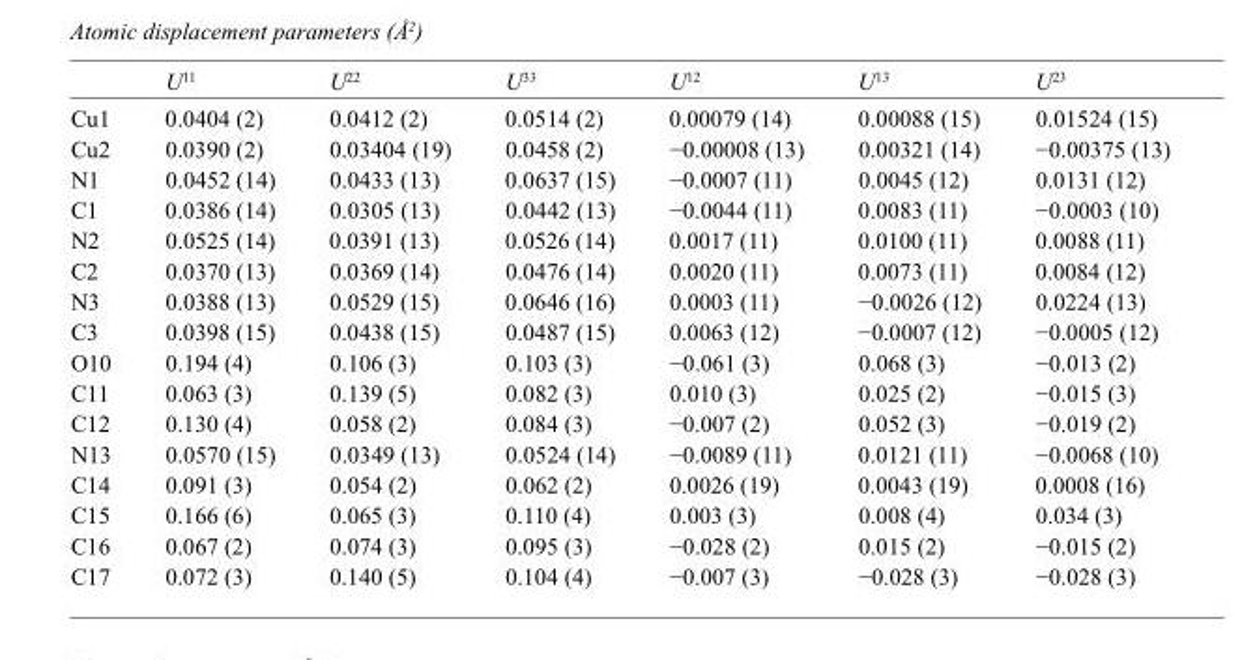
<table><thead><tr><td></td><td>U<sup>11</sup></td><td>U<sup>22</sup></td><td>U<sup>33</sup></td><td>U<sup>12</sup></td><td>U<sup>13</sup></td><td>U<sup>23</sup></td></tr></thead><tbody><tr><td>Cu1</td><td>0.0404 (2)</td><td>0.0412 (2)</td><td>0.0514 (2)</td><td>0.00079 (14)</td><td>0.00088 (15)</td><td>0.01524 (15)</td></tr><tr><td>Cu2</td><td>0.0390 (2)</td><td>0.03404 (19)</td><td>0.0458 (2)</td><td>−0.00008 (13)</td><td>0.00321 (14)</td><td>−0.00375 (13)</td></tr><tr><td>N1</td><td>0.0452 (14)</td><td>0.0433 (13)</td><td>0.0637 (15)</td><td>−0.0007 (11)</td><td>0.0045 (12)</td><td>0.0131 (12)</td></tr><tr><td>C1</td><td>0.0386 (14)</td><td>0.0305 (13)</td><td>0.0442 (13)</td><td>−0.0044 (11)</td><td>0.0083 (11)</td><td>−0.0003 (10)</td></tr><tr><td>N2</td><td>0.0525 (14)</td><td>0.0391 (13)</td><td>0.0526 (14)</td><td>0.0017 (11)</td><td>0.0100 (11)</td><td>0.0088 (11)</td></tr><tr><td>C2</td><td>0.0370 (13)</td><td>0.0369 (14)</td><td>0.0476 (14)</td><td>0.0020 (11)</td><td>0.0073 (11)</td><td>0.0084 (12)</td></tr><tr><td>N3</td><td>0.0388 (13)</td><td>0.0529 (15)</td><td>0.0646 (16)</td><td>0.0003 (11)</td><td>−0.0026 (12)</td><td>0.0224 (13)</td></tr><tr><td>C3</td><td>0.0398 (15)</td><td>0.0438 (15)</td><td>0.0487 (15)</td><td>0.0063 (12)</td><td>−0.0007 (12)</td><td>−0.0005 (12)</td></tr><tr><td>O10</td><td>0.194 (4)</td><td>0.106 (3)</td><td>0.103 (3)</td><td>−0.061 (3)</td><td>0.068 (3)</td><td>−0.013 (2)</td></tr><tr><td>C11</td><td>0.063 (3)</td><td>0.139 (5)</td><td>0.082 (3)</td><td>0.010 (3)</td><td>0.025 (2)</td><td>−0.015 (3)</td></tr><tr><td>C12</td><td>0.130 (4)</td><td>0.058 (2)</td><td>0.084 (3)</td><td>−0.007 (2)</td><td>0.052 (3)</td><td>−0.019 (2)</td></tr><tr><td>N13</td><td>0.0570 (15)</td><td>0.0349 (13)</td><td>0.0524 (14)</td><td>−0.0089 (11)</td><td>0.0121 (11)</td><td>−0.0068 (10)</td></tr><tr><td>C14</td><td>0.091 (3)</td><td>0.054 (2)</td><td>0.062 (2)</td><td>0.0026 (19)</td><td>0.0043 (19)</td><td>0.0008 (16)</td></tr><tr><td>C15</td><td>0.166 (6)</td><td>0.065 (3)</td><td>0.110 (4)</td><td>0.003 (3)</td><td>0.008 (4)</td><td>0.034 (3)</td></tr><tr><td>C16</td><td>0.067 (2)</td><td>0.074 (3)</td><td>0.095 (3)</td><td>−0.028 (2)</td><td>0.015 (2)</td><td>−0.015 (2)</td></tr><tr><td>C17</td><td>0.072 (3)</td><td>0.140 (5)</td><td>0.104 (4)</td><td>−0.007 (3)</td><td>−0.028 (3)</td><td>−0.028 (3)</td></tr></tbody></table>